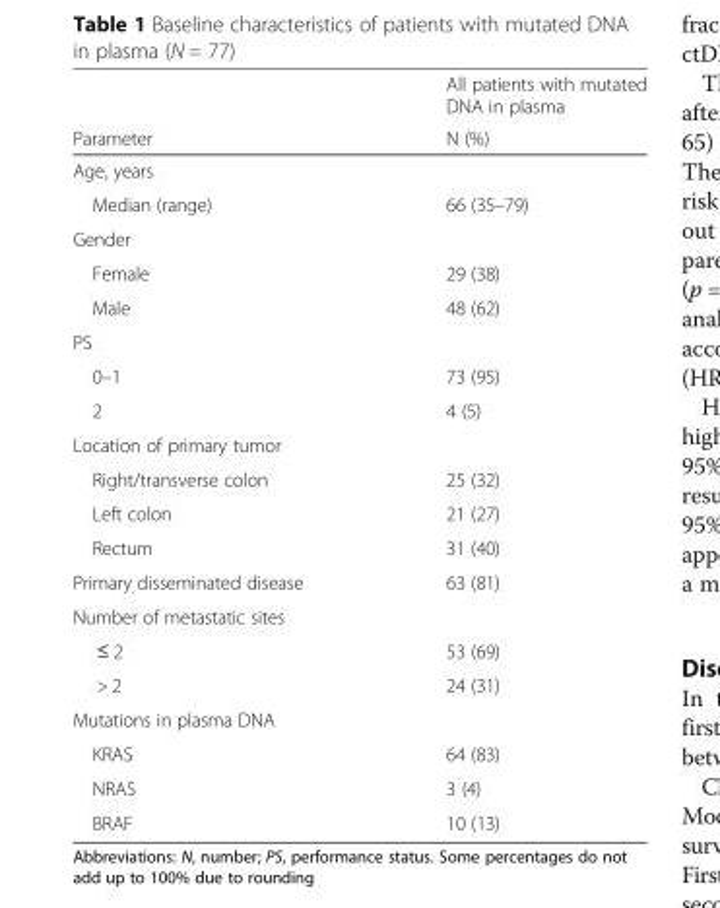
<table><thead><tr><td rowspan="2">Parameter</td><td rowspan="2">All patients with mutated DNA in plasma N (%)</td></tr><tr></tr></thead><tbody><tr><td colspan="2">Age, years</td></tr><tr><td>Median (range)</td><td>66 (35–79)</td></tr><tr><td colspan="2">Gender</td></tr><tr><td>Female</td><td>29 (38)</td></tr><tr><td>Male</td><td>48 (62)</td></tr><tr><td colspan="2">PS</td></tr><tr><td>0–1</td><td>73 (95)</td></tr><tr><td>2</td><td>4 (5)</td></tr><tr><td colspan="2">Location of primary tumor</td></tr><tr><td>Right/transverse colon</td><td>25 (32)</td></tr><tr><td>Left colon</td><td>21 (27)</td></tr><tr><td>Rectum</td><td>31 (40)</td></tr><tr><td>Primary disseminated disease</td><td>63 (81)</td></tr><tr><td colspan="2">Number of metastatic sites</td></tr><tr><td>≤ 2</td><td>53 (69)</td></tr><tr><td>&gt; 2</td><td>24 (31)</td></tr><tr><td colspan="2">Mutations in plasma DNA</td></tr><tr><td>KRAS</td><td>64 (83)</td></tr><tr><td>NRAS</td><td>3 (4)</td></tr><tr><td>BRAF</td><td>10 (13)</td></tr></tbody></table>